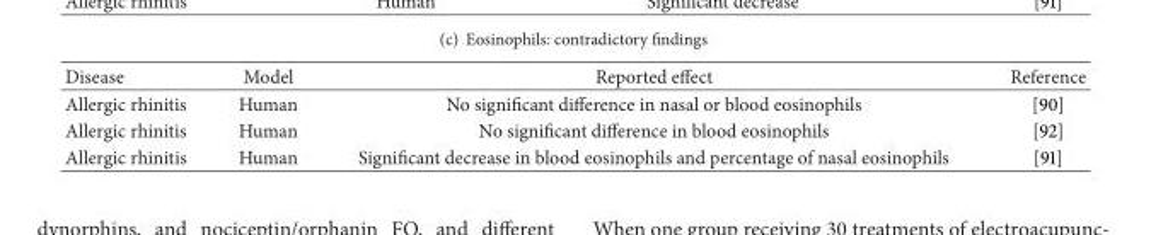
<table><thead><tr><td>Disease</td><td>Model</td><td>Reported effect</td><td>Reference</td></tr></thead><tbody><tr><td>Allergic rhinitis</td><td>Human</td><td>No significant difference in nasal or blood eosinophils</td><td>[90]</td></tr><tr><td>Allergic rhinitis</td><td>Human</td><td>No significant difference in blood eosinophils</td><td>[92]</td></tr><tr><td>Allergic rhinitis</td><td>Human</td><td>Significant decrease in blood eosinophils and percentage of nasal eosinophils</td><td>[91]</td></tr></tbody></table>